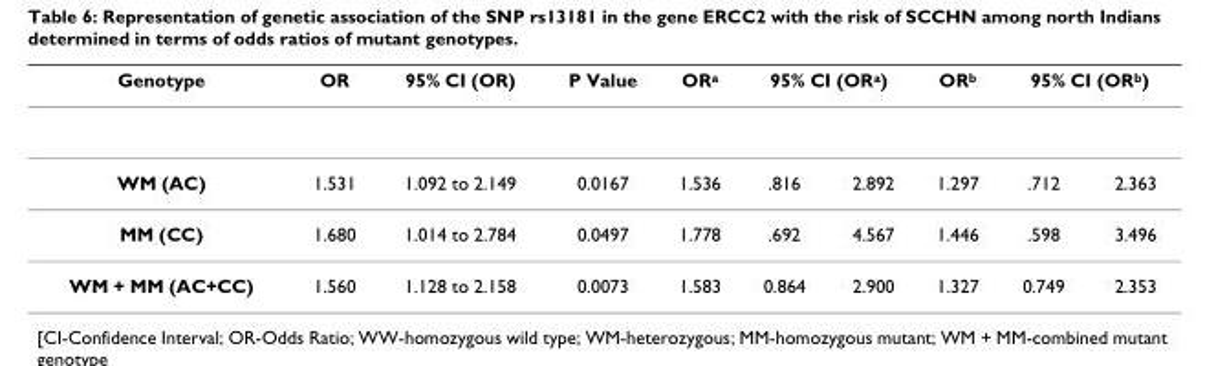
<table><thead><tr><td rowspan="2">Genotype WM (AC)</td><td rowspan="2">OR 1.531</td><td rowspan="2">95% CI (OR) 1.092 to 2.149</td><td rowspan="2">P Value 0.0167</td><td rowspan="2">ORa 1.536</td><td colspan="2">95% CI (ORa)</td><td rowspan="2">ORb 1.297</td><td colspan="2">95% CI (ORb)</td></tr><tr><td>.816</td><td>2.892</td><td>.712</td><td>2.363</td></tr></thead><tbody><tr><td>MM (CC)</td><td>1.680</td><td>1.014 to 2.784</td><td>0.0497</td><td>1.778</td><td>.692</td><td>4.567</td><td>1.446</td><td>.598</td><td>3.496</td></tr><tr><td>WM + MM (AC+CC)</td><td>1.560</td><td>1.128 to 2.158</td><td>0.0073</td><td>1.583</td><td>0.864</td><td>2.900</td><td>1.327</td><td>0.749</td><td>2.353</td></tr></tbody></table>